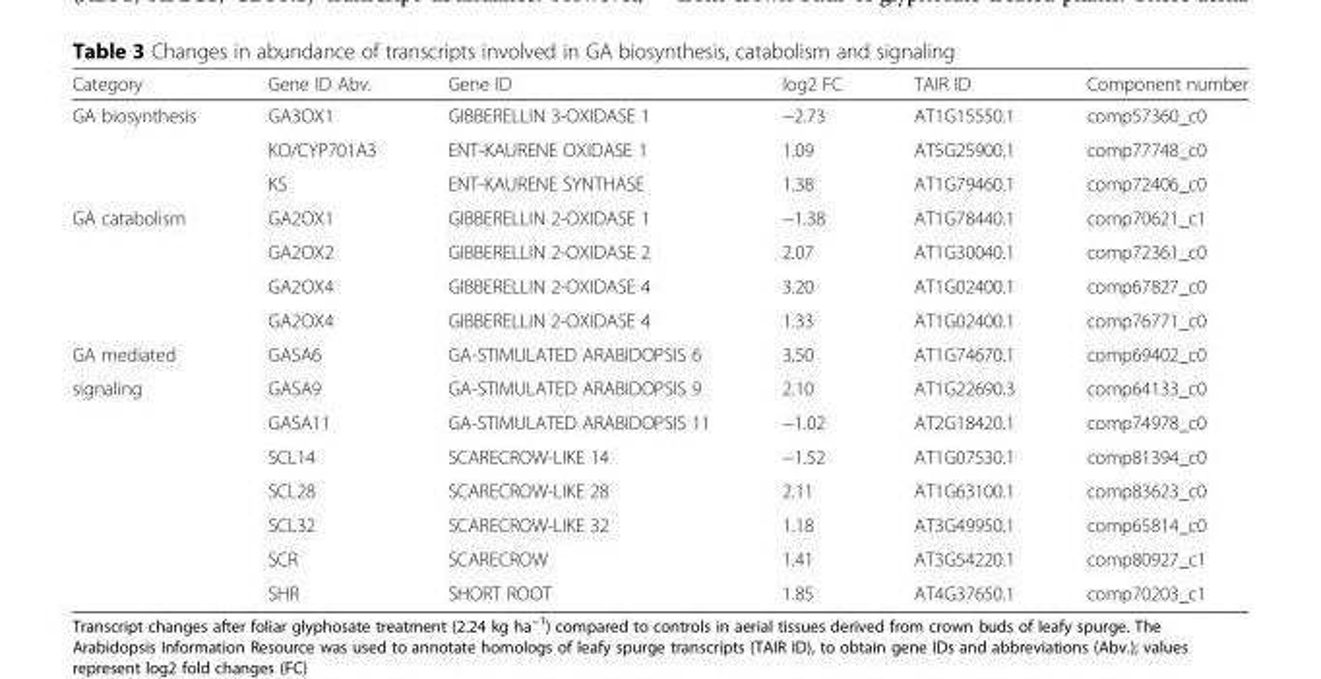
<table><thead><tr><td>Category</td><td>Gene ID Abv.</td><td>Gene ID</td><td>log2 FC</td><td>TAIR ID</td><td>Component number</td></tr></thead><tbody><tr><td rowspan="3">GA biosynthesis</td><td>GA3OX1</td><td>GIBBERELLIN 3-OXIDASE 1</td><td>−2.73</td><td>AT1G15550.1</td><td>comp57360_c0</td></tr><tr><td>KO/CYP701A3</td><td>ENT-KAURENE OXIDASE 1</td><td>1.09</td><td>AT5G25900.1</td><td>comp77748_c0</td></tr><tr><td>KS</td><td>ENT-KAURENE SYNTHASE</td><td>1.38</td><td>AT1G79460.1</td><td>comp72406_c0</td></tr><tr><td rowspan="4">GA catabolism</td><td>GA2OX1</td><td>GIBBERELLIN 2-OXIDASE 1</td><td>−1.38</td><td>AT1G78440.1</td><td>comp70621_c1</td></tr><tr><td>GA2OX2</td><td>GIBBERELLIN 2-OXIDASE 2</td><td>2.07</td><td>AT1G30040.1</td><td>comp72361_c0</td></tr><tr><td>GA2OX4</td><td>GIBBERELLIN 2-OXIDASE 4</td><td>3.20</td><td>AT1G02400.1</td><td>comp67827_c0</td></tr><tr><td>GA2OX4</td><td>GIBBERELLIN 2-OXIDASE 4</td><td>1.33</td><td>AT1G02400.1</td><td>comp76771_c0</td></tr><tr><td>GA mediated</td><td>GASA6</td><td>GA-STIMULATED ARABIDOPSIS 6</td><td>3.50</td><td>AT1G74670.1</td><td>comp69402_c0</td></tr><tr><td rowspan="7">signaling</td><td>GASA9</td><td>GA-STIMULATED ARABIDOPSIS 9</td><td>2.10</td><td>AT1G22690.3</td><td>comp64133_c0</td></tr><tr><td>GASA11</td><td>GA-STIMULATED ARABIDOPSIS 11</td><td>−1.02</td><td>AT2G18420.1</td><td>comp74978_c0</td></tr><tr><td>SCL14</td><td>SCARECROW-LIKE 14</td><td>−1.52</td><td>AT1G07530.1</td><td>comp81394_c0</td></tr><tr><td>SCL28</td><td>SCARECROW-LIKE 28</td><td>2.11</td><td>AT1G63100.1</td><td>comp83623_c0</td></tr><tr><td>SCL32</td><td>SCARECROW-LIKE 32</td><td>1.18</td><td>AT3G49950.1</td><td>comp65814_c0</td></tr><tr><td>SCR</td><td>SCARECROW</td><td>1.41</td><td>AT3G54220.1</td><td>comp80927_c1</td></tr><tr><td>SHR</td><td>SHORT ROOT</td><td>1.85</td><td>AT4G37650.1</td><td>comp70203_c1</td></tr></tbody></table>